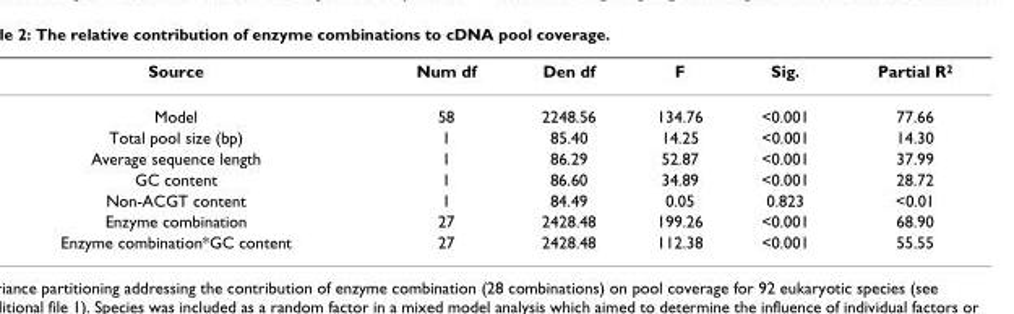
<table><thead><tr><td>Source</td><td>Num df</td><td>Den df</td><td>F</td><td>Sig.</td><td>Partial R<sup>2</sup></td></tr></thead><tbody><tr><td>Model</td><td>58</td><td>2248.56</td><td>134.76</td><td>&lt;0.001</td><td>77.66</td></tr><tr><td>Total pool size (bp)</td><td>1</td><td>85.40</td><td>14.25</td><td>&lt;0.001</td><td>14.30</td></tr><tr><td>Average sequence length</td><td>1</td><td>86.29</td><td>52.87</td><td>&lt;0.001</td><td>37.99</td></tr><tr><td>GC content</td><td>1</td><td>86.60</td><td>34.89</td><td>&lt;0.001</td><td>28.72</td></tr><tr><td>Non-ACGT content</td><td>1</td><td>84.49</td><td>0.05</td><td>0.823</td><td>&lt;0.01</td></tr><tr><td>Enzyme combination</td><td>27</td><td>2428.48</td><td>199.26</td><td>&lt;0.001</td><td>68.90</td></tr><tr><td>Enzyme combination*GC content</td><td>27</td><td>2428.48</td><td>112.38</td><td>&lt;0.001</td><td>55.55</td></tr></tbody></table>